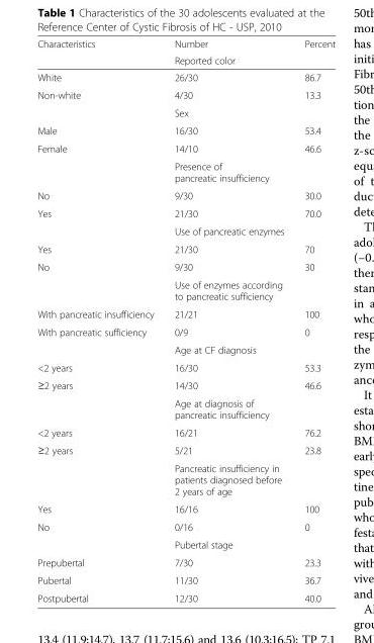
<table><thead><tr><td rowspan="2">Characteristics</td><td rowspan="2">Number Reported color</td><td rowspan="2">Percent</td></tr><tr></tr></thead><tbody><tr><td>White</td><td>26/30</td><td>86.7</td></tr><tr><td rowspan="2">Non-white</td><td>4/30</td><td>13.3</td></tr><tr><td>Sex</td><td></td></tr><tr><td>Male</td><td>16/30</td><td>53.4</td></tr><tr><td rowspan="2">Female</td><td>14/10</td><td>46.6</td></tr><tr><td>Presence of pancreatic insufficiency</td><td></td></tr><tr><td>No</td><td>9/30</td><td>30.0</td></tr><tr><td rowspan="2">Yes</td><td>21/30</td><td>70.0</td></tr><tr><td>Use of pancreatic enzymes</td><td></td></tr><tr><td>Yes</td><td>21/30</td><td>70</td></tr><tr><td rowspan="2">No</td><td>9/30</td><td>30</td></tr><tr><td>Use of enzymes according to pancreatic sufficiency</td><td></td></tr><tr><td>With pancreatic insufficiency</td><td>21/21</td><td>100</td></tr><tr><td rowspan="2">With pancreatic sufficiency</td><td>0/9</td><td>0</td></tr><tr><td>Age at CF diagnosis</td><td></td></tr><tr><td>&lt;2 years</td><td>16/30</td><td>53.3</td></tr><tr><td rowspan="2">≥2 years</td><td>14/30</td><td>46.6</td></tr><tr><td>Age at diagnosis of pancreatic insufficiency</td><td></td></tr><tr><td>&lt;2 years</td><td>16/21</td><td>76.2</td></tr><tr><td rowspan="2">≥2 years</td><td>5/21</td><td>23.8</td></tr><tr><td>Pancreatic insufficiency in patients diagnosed before 2 years of age</td><td></td></tr><tr><td>Yes</td><td>16/16</td><td>100</td></tr><tr><td rowspan="2">No</td><td>0/16</td><td>0</td></tr><tr><td>Pubertal stage</td><td></td></tr><tr><td>Prepubertal</td><td>7/30</td><td>23.3</td></tr><tr><td>Pubertal</td><td>11/30</td><td>36.7</td></tr><tr><td>Postpubertal</td><td>12/30</td><td>40.0</td></tr></tbody></table>